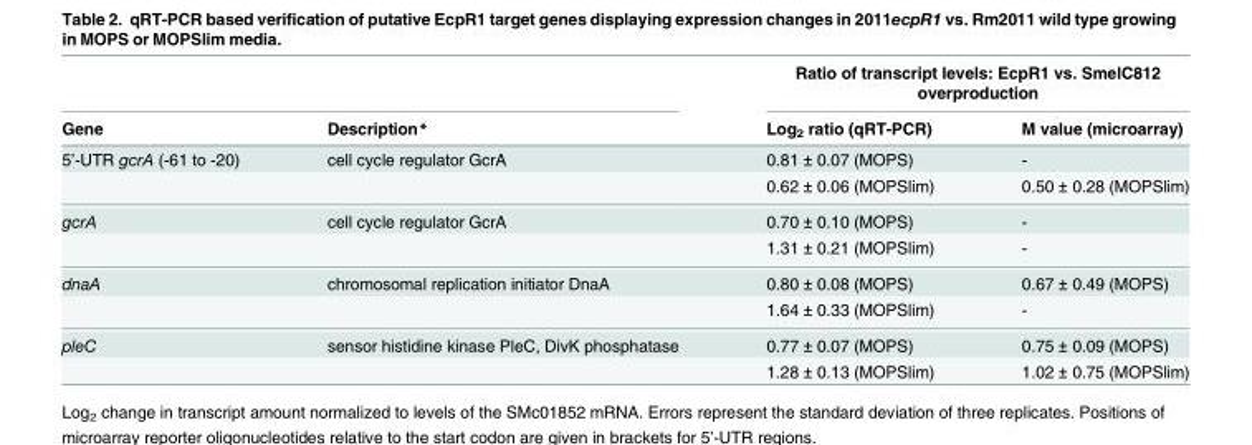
<table><thead><tr><td rowspan="2">Gene</td><td rowspan="2">Description*</td><td colspan="2">Ratio of transcript levels: EcpR1 vs. SmelC812 overproduction</td></tr><tr><td>Log<sub>2</sub> ratio (qRT-PCR)</td><td>M value (microarray)</td></tr></thead><tbody><tr><td rowspan="2">5’-UTR gcrA (-61 to -20)</td><td>cell cycle regulator GcrA</td><td>0.81 ± 0.07 (MOPS)</td><td>-</td></tr><tr><td></td><td>0.62 ± 0.06 (MOPSlim)</td><td>0.50 ± 0.28 (MOPSlim)</td></tr><tr><td rowspan="2">gcrA</td><td>cell cycle regulator GcrA</td><td>0.70 ± 0.10 (MOPS)</td><td>-</td></tr><tr><td></td><td>1.31 ± 0.21 (MOPSlim)</td><td>-</td></tr><tr><td rowspan="2">dnaA</td><td>chromosomal replication initiator DnaA</td><td>0.80 ± 0.08 (MOPS)</td><td>0.67 ± 0.49 (MOPS)</td></tr><tr><td></td><td>1.64 ± 0.33 (MOPSlim)</td><td>-</td></tr><tr><td rowspan="2">pleC</td><td>sensor histidine kinase PleC, DivK phosphatase</td><td>0.77 ± 0.07 (MOPS)</td><td>0.75 ± 0.09 (MOPS)</td></tr><tr><td></td><td>1.28 ± 0.13 (MOPSlim)</td><td>1.02 ± 0.75 (MOPSlim)</td></tr></tbody></table>